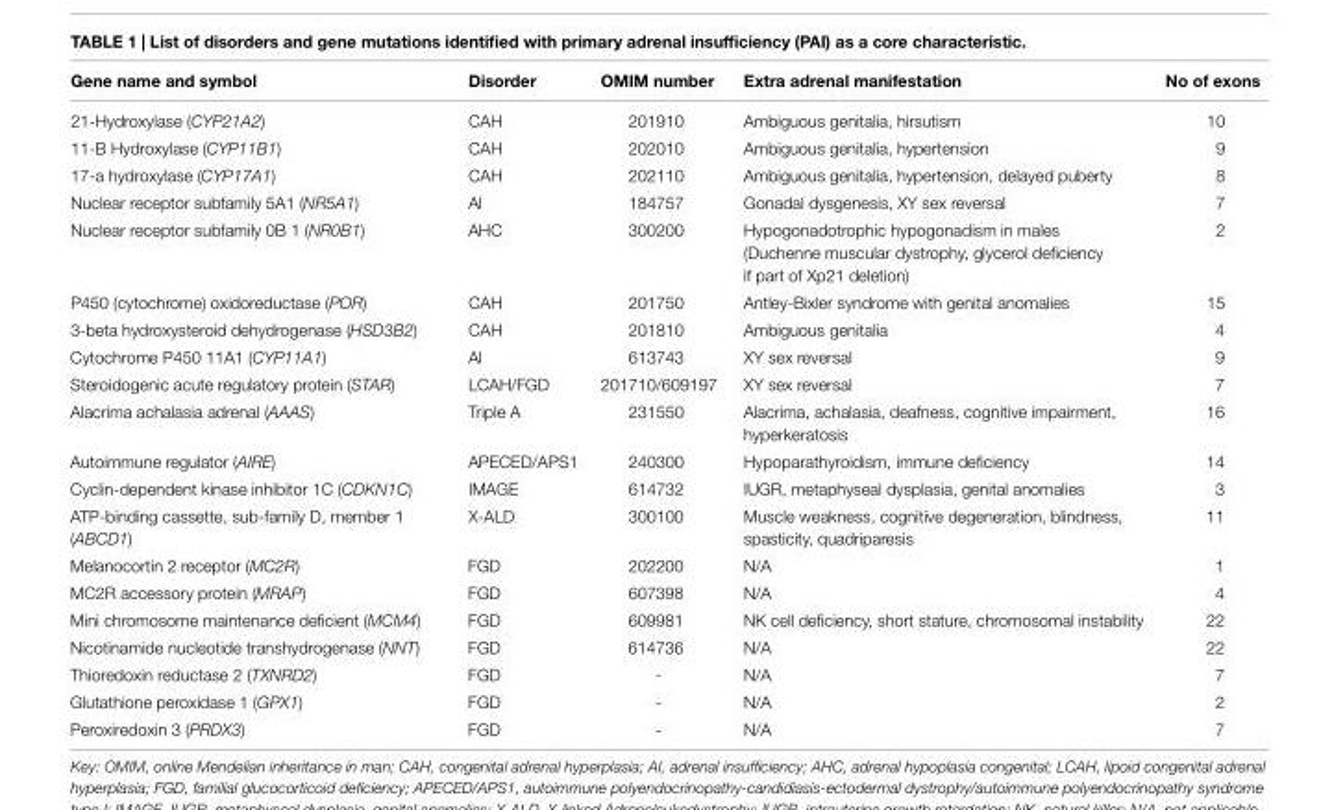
<table><thead><tr><td>gene name and symbol</td><td>Disorder</td><td>OMiM number</td><td>extra adrenal manifestation</td><td>no of exons</td></tr></thead><tbody><tr><td>21-Hydroxylase (CYP21A2)</td><td>CAH</td><td>201910</td><td>Ambiguous genitalia, hirsutism</td><td>10</td></tr><tr><td>11-B Hydroxylase (CYP11B1)</td><td>CAH</td><td>202010</td><td>Ambiguous genitalia, hypertension</td><td>9</td></tr><tr><td>17-a hydroxylase (CYP17A1)</td><td>CAH</td><td>202110</td><td>Ambiguous genitalia, hypertension, delayed puberty</td><td>8</td></tr><tr><td>Nuclear receptor subfamily 5A1 (NR5A1)</td><td>AI</td><td>184757</td><td>Gonadal dysgenesis, XY sex reversal</td><td>7</td></tr><tr><td>Nuclear receptor subfamily 0B 1 (NR0B1)</td><td>AHC</td><td>300200</td><td>Hypogonadotrophic hypogonadism in males (Duchenne muscular dystrophy, glycerol deficiency if part of Xp21 deletion)</td><td>2</td></tr><tr><td>P450 (cytochrome) oxidoreductase (POR)</td><td>CAH</td><td>201750</td><td>Antley-Bixler syndrome with genital anomalies</td><td>15</td></tr><tr><td>3-beta hydroxysteroid dehydrogenase (HSD3B2)</td><td>CAH</td><td>201810</td><td>Ambiguous genitalia</td><td>4</td></tr><tr><td>Cytochrome P450 11A1 (CYP11A1)</td><td>AI</td><td>613743</td><td>XY sex reversal</td><td>9</td></tr><tr><td>Steroidogenic acute regulatory protein (STAR)</td><td>LCAH/FGD</td><td>201710/609197</td><td>XY sex reversal</td><td>7</td></tr><tr><td>Alacrima achalasia adrenal (AAAS)</td><td>Triple A</td><td>231550</td><td>Alacrima, achalasia, deafness, cognitive impairment, hyperkeratosis</td><td>16</td></tr><tr><td>Autoimmune regulator (AIRE)</td><td>APECED/APS1</td><td>240300</td><td>Hypoparathyroidism, immune deficiency</td><td>14</td></tr><tr><td>Cyclin-dependent kinase inhibitor 1C (CDKN1C)</td><td>IMAGE</td><td>614732</td><td>IUGR, metaphyseal dysplasia, genital anomalies</td><td>3</td></tr><tr><td>ATP-binding cassette, sub-family D, member 1 (ABCD1)</td><td>X-ALD</td><td>300100</td><td>Muscle weakness, cognitive degeneration, blindness, spasticity, quadriparesis</td><td>11</td></tr><tr><td>Melanocortin 2 receptor (MC2R)</td><td>FGD</td><td>202200</td><td>N/A</td><td>1</td></tr><tr><td>MC2R accessory protein (MRAP)</td><td>FGD</td><td>607398</td><td>N/A</td><td>4</td></tr><tr><td>Mini chromosome maintenance deficient (MCM4)</td><td>FGD</td><td>609981</td><td>NK cell deficiency, short stature, chromosomal instability</td><td>22</td></tr><tr><td>Nicotinamide nucleotide transhydrogenase (NNT)</td><td>FGD</td><td>614736</td><td>N/A</td><td>22</td></tr><tr><td>Thioredoxin reductase 2 (TXNRD2)</td><td>FGD</td><td>-</td><td>N/A</td><td>7</td></tr><tr><td>Glutathione peroxidase 1 (GPX1)</td><td>FGD</td><td>-</td><td>N/A</td><td>2</td></tr><tr><td>Peroxiredoxin 3 (PRDX3)</td><td>FGD</td><td>-</td><td>N/A</td><td>7</td></tr></tbody></table>